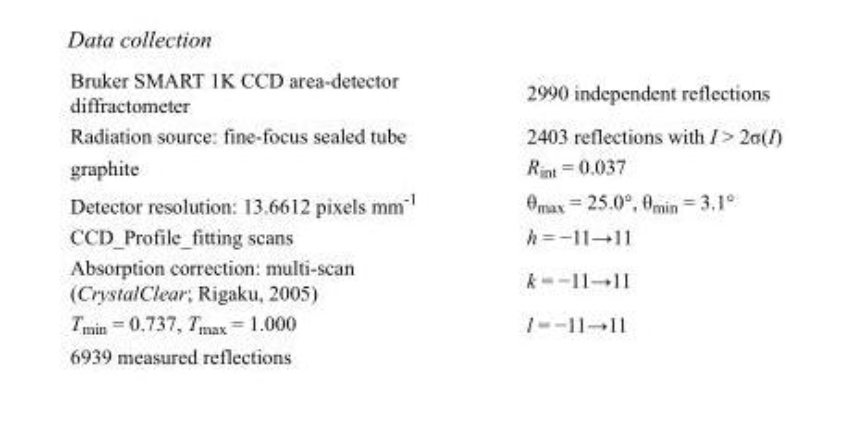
<table><tbody><tr><td>Bruker SMART 1K CCD area-detector diffractometer</td><td>2990 independent reflections</td></tr><tr><td>Radiation source: fine-focus sealed tube</td><td>2403 reflections with I &gt; 2σ(I)</td></tr><tr><td>graphite</td><td>R<sub>int</sub> = 0.037</td></tr><tr><td>Detector resolution: 13.6612 pixels mm<sup>-1</sup></td><td>θ<sub>max</sub> = 25.0°, θ<sub>min</sub> = 3.1°</td></tr><tr><td>CCD_Profile_fitting scans</td><td>h = −11→11</td></tr><tr><td>Absorption correction: multi-scan (CrystalClear; Rigaku, 2005)</td><td>k = −11→11</td></tr><tr><td>T<sub>min</sub> = 0.737, T<sub>max</sub> = 1.000</td><td>l = −11→11</td></tr><tr><td>6939 measured reflections</td><td></td></tr></tbody></table>